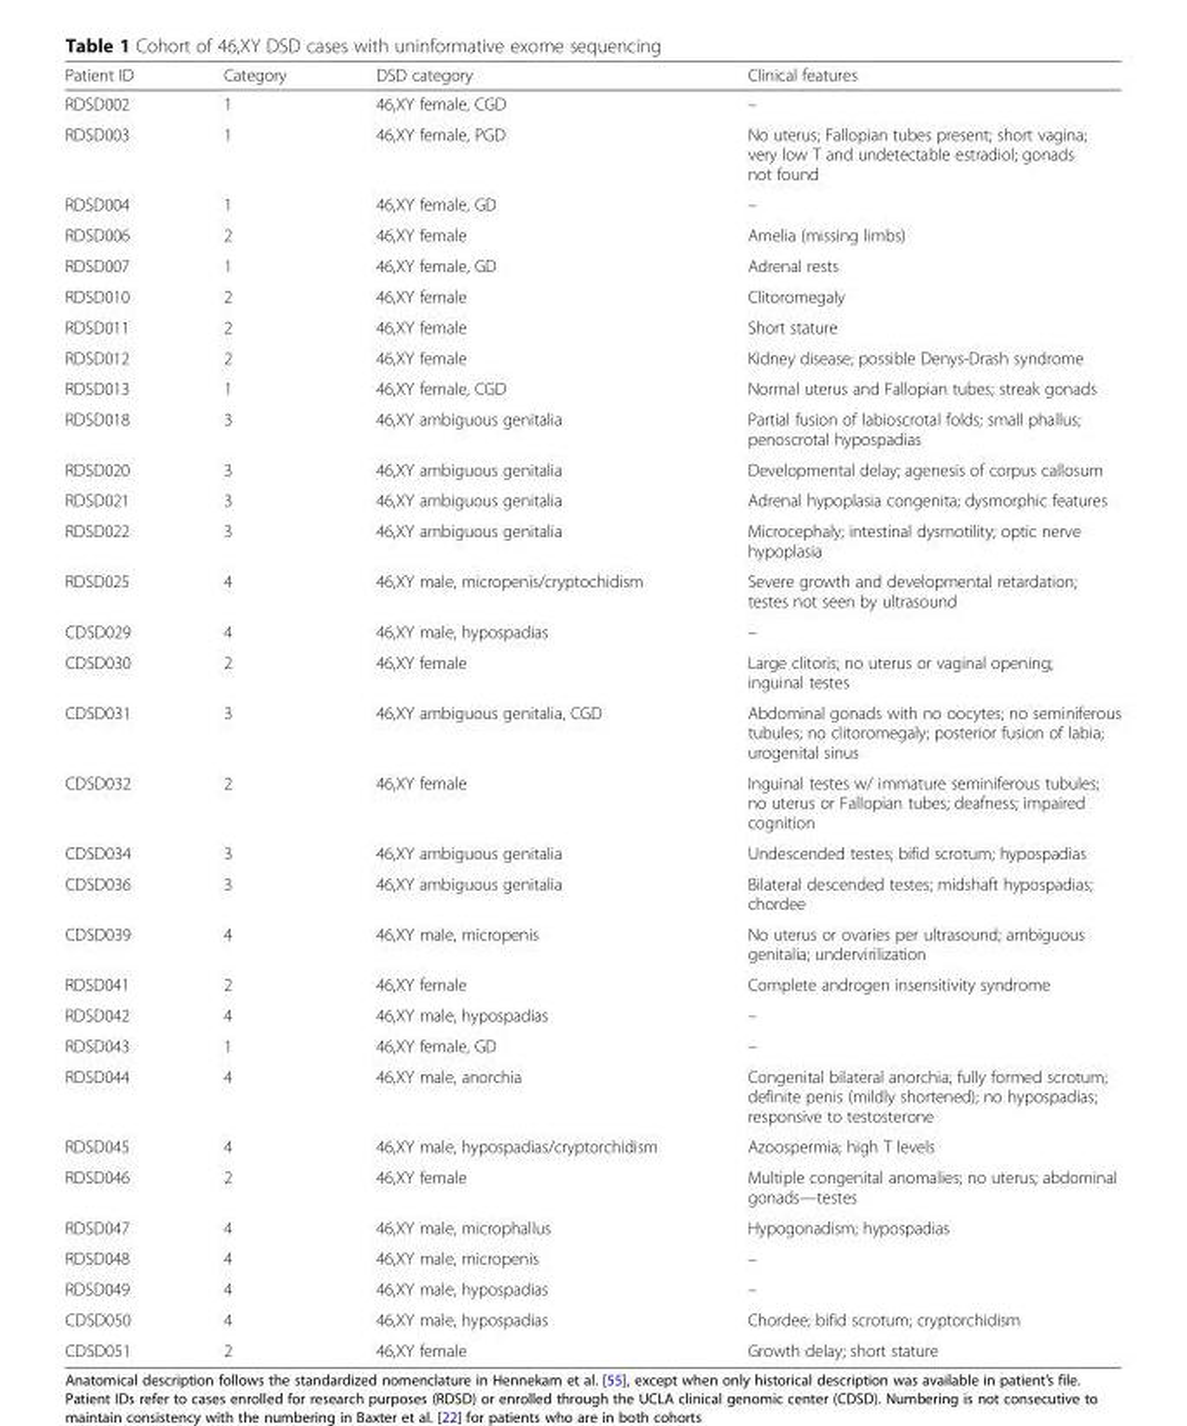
<table><thead><tr><td>Patient ID</td><td>Category</td><td>DSD category</td><td>Clinical features</td></tr></thead><tbody><tr><td>RDSD002</td><td>1</td><td>46,XY female, CGD</td><td>–</td></tr><tr><td>RDSD003</td><td>1</td><td>46,XY female, PGD</td><td>No uterus; Fallopian tubes present; short vagina; very low T and undetectable estradiol; gonads not found</td></tr><tr><td>RDSD004</td><td>1</td><td>46,XY female, GD</td><td>–</td></tr><tr><td>RDSD006</td><td>2</td><td>46,XY female</td><td>Amelia (missing limbs)</td></tr><tr><td>RDSD007</td><td>1</td><td>46,XY female, GD</td><td>Adrenal rests</td></tr><tr><td>RDSD010</td><td>2</td><td>46,XY female</td><td>Clitoromegaly</td></tr><tr><td>RDSD011</td><td>2</td><td>46,XY female</td><td>Short stature</td></tr><tr><td>RDSD012</td><td>2</td><td>46,XY female</td><td>Kidney disease; possible Denys-Drash syndrome</td></tr><tr><td>RDSD013</td><td>1</td><td>46,XY female, CGD</td><td>Normal uterus and Fallopian tubes; streak gonads</td></tr><tr><td>RDSD018</td><td>3</td><td>46,XY ambiguous genitalia</td><td>Partial fusion of labioscrotal folds; small phallus; penoscrotal hypospadias</td></tr><tr><td>RDSD020</td><td>3</td><td>46,XY ambiguous genitalia</td><td>Developmental delay; agenesis of corpus callosum</td></tr><tr><td>RDSD021</td><td>3</td><td>46,XY ambiguous genitalia</td><td>Adrenal hypoplasia congenita; dysmorphic features</td></tr><tr><td>RDSD022</td><td>3</td><td>46,XY ambiguous genitalia</td><td>Microcephaly; intestinal dysmotility; optic nerve hypoplasia</td></tr><tr><td>RDSD025</td><td>4</td><td>46,XY male, micropenis/cryptochidism</td><td>Severe growth and developmental retardation; testes not seen by ultrasound</td></tr><tr><td>CDSD029</td><td>4</td><td>46,XY male, hypospadias</td><td>–</td></tr><tr><td>CDSD030</td><td>2</td><td>46,XY female</td><td>Large clitoris; no uterus or vaginal opening; inguinal testes</td></tr><tr><td>CDSD031</td><td>3</td><td>46,XY ambiguous genitalia, CGD</td><td>Abdominal gonads with no oocytes; no seminiferous tubules; no clitoromegaly; posterior fusion of labia; urogenital sinus</td></tr><tr><td>CDSD032</td><td>2</td><td>46,XY female</td><td>Inguinal testes w/ immature seminiferous tubules; no uterus or Fallopian tubes; deafness; impaired cognition</td></tr><tr><td>CDSD034</td><td>3</td><td>46,XY ambiguous genitalia</td><td>Undescended testes; bifid scrotum; hypospadias</td></tr><tr><td>CDSD036</td><td>3</td><td>46,XY ambiguous genitalia</td><td>Bilateral descended testes; midshaft hypospadias; chordee</td></tr><tr><td>CDSD039</td><td>4</td><td>46,XY male, micropenis</td><td>No uterus or ovaries per ultrasound; ambiguous genitalia; undervirilization</td></tr><tr><td>RDSD041</td><td>2</td><td>46,XY female</td><td>Complete androgen insensitivity syndrome</td></tr><tr><td>RDSD042</td><td>4</td><td>46,XY male, hypospadias</td><td>–</td></tr><tr><td>RDSD043</td><td>1</td><td>46,XY female, GD</td><td>–</td></tr><tr><td>RDSD044</td><td>4</td><td>46,XY male, anorchia</td><td>Congenital bilateral anorchia; fully formed scrotum; definite penis (mildly shortened); no hypospadias; responsive to testosterone</td></tr><tr><td>RDSD045</td><td>4</td><td>46,XY male, hypospadias/cryptorchidism</td><td>Azoospermia; high T levels</td></tr><tr><td>RDSD046</td><td>2</td><td>46,XY female</td><td>Multiple congenital anomalies; no uterus; abdominal gonads—testes</td></tr><tr><td>RDSD047</td><td>4</td><td>46,XY male, microphallus</td><td>Hypogonadism; hypospadias</td></tr><tr><td>RDSD048</td><td>4</td><td>46,XY male, micropenis</td><td>–</td></tr><tr><td>RDSD049</td><td>4</td><td>46,XY male, hypospadias</td><td>–</td></tr><tr><td>CDSD050</td><td>4</td><td>46,XY male, hypospadias</td><td>Chordee; bifid scrotum; cryptorchidism</td></tr><tr><td>CDSD051</td><td>2</td><td>46,XY female</td><td>Growth delay; short stature</td></tr></tbody></table>